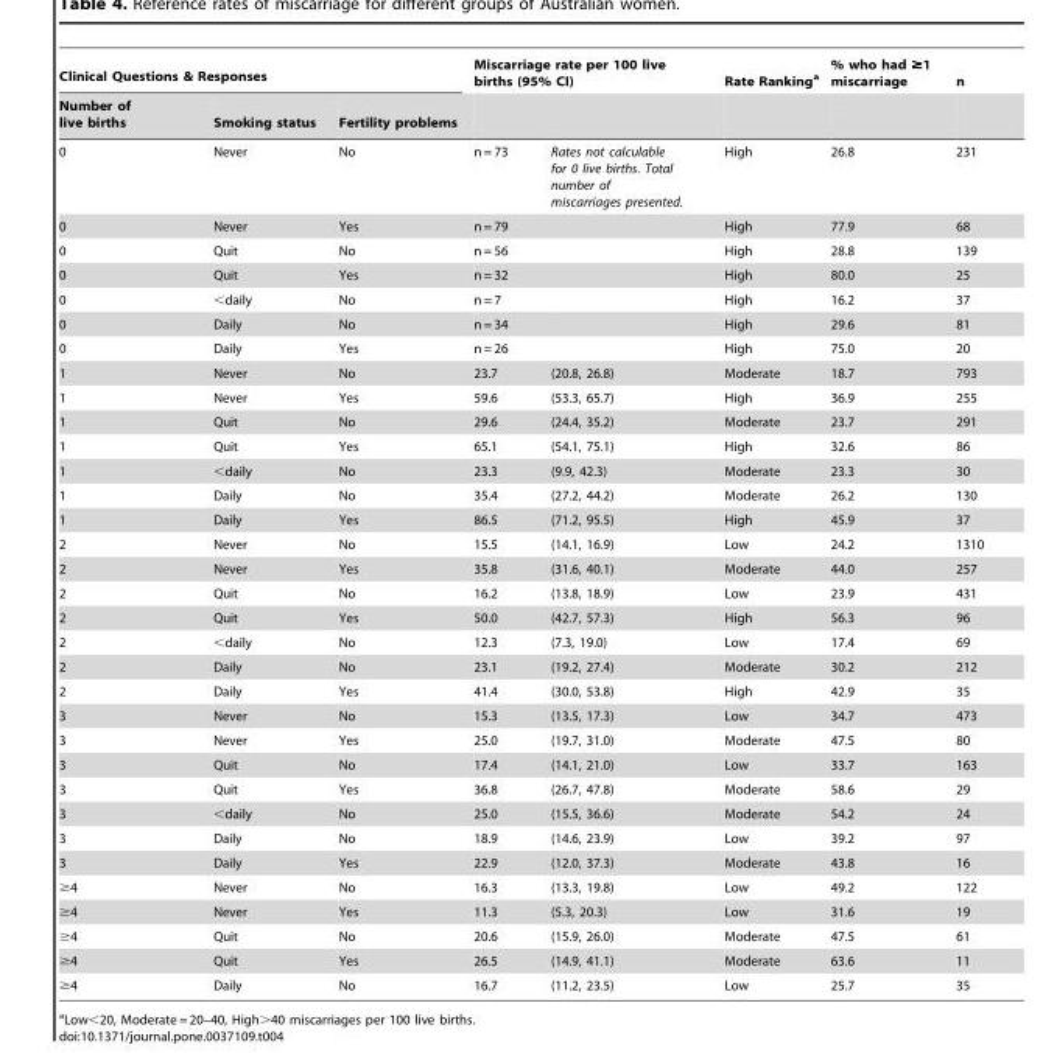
<table><thead><tr><td colspan="3">Clinical Questions &amp; Responses</td><td colspan="2">Miscarriage rate per 100 live births (95% CI)</td><td rowspan="2">Rate Ranking<sup>a</sup></td><td rowspan="2">% who had ≥1 miscarriage</td><td rowspan="2">n</td></tr><tr><td>Number of live births</td><td>Smoking status</td><td>Fertility problems</td><td></td><td></td></tr></thead><tbody><tr><td>0</td><td>Never</td><td>No</td><td>n = 73</td><td>Rates not calculable for 0 live births. Total number of miscarriages presented.</td><td>High</td><td>26.8</td><td>231</td></tr><tr><td>0</td><td>Never</td><td>Yes</td><td>n = 79</td><td></td><td>High</td><td>77.9</td><td>68</td></tr><tr><td>0</td><td>Quit</td><td>No</td><td>n = 56</td><td></td><td>High</td><td>28.8</td><td>139</td></tr><tr><td>0</td><td>Quit</td><td>Yes</td><td>n = 32</td><td></td><td>High</td><td>80.0</td><td>25</td></tr><tr><td>0</td><td>&lt;daily</td><td>No</td><td>n = 7</td><td></td><td>High</td><td>16.2</td><td>37</td></tr><tr><td>0</td><td>Daily</td><td>No</td><td>n = 34</td><td></td><td>High</td><td>29.6</td><td>81</td></tr><tr><td>0</td><td>Daily</td><td>Yes</td><td>n = 26</td><td></td><td>High</td><td>75.0</td><td>20</td></tr><tr><td>1</td><td>Never</td><td>No</td><td>23.7</td><td>(20.8, 26.8)</td><td>Moderate</td><td>18.7</td><td>793</td></tr><tr><td>1</td><td>Never</td><td>Yes</td><td>59.6</td><td>(53.3, 65.7)</td><td>High</td><td>36.9</td><td>255</td></tr><tr><td>1</td><td>Quit</td><td>No</td><td>29.6</td><td>(24.4, 35.2)</td><td>Moderate</td><td>23.7</td><td>291</td></tr><tr><td>1</td><td>Quit</td><td>Yes</td><td>65.1</td><td>(54.1, 75.1)</td><td>High</td><td>32.6</td><td>86</td></tr><tr><td>1</td><td>&lt;daily</td><td>No</td><td>23.3</td><td>(9.9, 42.3)</td><td>Moderate</td><td>23.3</td><td>30</td></tr><tr><td>1</td><td>Daily</td><td>No</td><td>35.4</td><td>(27.2, 44.2)</td><td>Moderate</td><td>26.2</td><td>130</td></tr><tr><td>1</td><td>Daily</td><td>Yes</td><td>86.5</td><td>(71.2, 95.5)</td><td>High</td><td>45.9</td><td>37</td></tr><tr><td>2</td><td>Never</td><td>No</td><td>15.5</td><td>(14.1, 16.9)</td><td>Low</td><td>24.2</td><td>1310</td></tr><tr><td>2</td><td>Never</td><td>Yes</td><td>35.8</td><td>(31.6, 40.1)</td><td>Moderate</td><td>44.0</td><td>257</td></tr><tr><td>2</td><td>Quit</td><td>No</td><td>16.2</td><td>(13.8, 18.9)</td><td>Low</td><td>23.9</td><td>431</td></tr><tr><td>2</td><td>Quit</td><td>Yes</td><td>50.0</td><td>(42.7, 57.3)</td><td>High</td><td>56.3</td><td>96</td></tr><tr><td>2</td><td>&lt;daily</td><td>No</td><td>12.3</td><td>(7.3, 19.0)</td><td>Low</td><td>17.4</td><td>69</td></tr><tr><td>2</td><td>Daily</td><td>No</td><td>23.1</td><td>(19.2, 27.4)</td><td>Moderate</td><td>30.2</td><td>212</td></tr><tr><td>2</td><td>Daily</td><td>Yes</td><td>41.4</td><td>(30.0, 53.8)</td><td>High</td><td>42.9</td><td>35</td></tr><tr><td>3</td><td>Never</td><td>No</td><td>15.3</td><td>(13.5, 17.3)</td><td>Low</td><td>34.7</td><td>473</td></tr><tr><td>3</td><td>Never</td><td>Yes</td><td>25.0</td><td>(19.7, 31.0)</td><td>Moderate</td><td>47.5</td><td>80</td></tr><tr><td>3</td><td>Quit</td><td>No</td><td>17.4</td><td>(14.1, 21.0)</td><td>Low</td><td>33.7</td><td>163</td></tr><tr><td>3</td><td>Quit</td><td>Yes</td><td>36.8</td><td>(26.7, 47.8)</td><td>Moderate</td><td>58.6</td><td>29</td></tr><tr><td>3</td><td>&lt;daily</td><td>No</td><td>25.0</td><td>(15.5, 36.6)</td><td>Moderate</td><td>54.2</td><td>24</td></tr><tr><td>3</td><td>Daily</td><td>No</td><td>18.9</td><td>(14.6, 23.9)</td><td>Low</td><td>39.2</td><td>97</td></tr><tr><td>3</td><td>Daily</td><td>Yes</td><td>22.9</td><td>(12.0, 37.3)</td><td>Moderate</td><td>43.8</td><td>16</td></tr><tr><td>≥4</td><td>Never</td><td>No</td><td>16.3</td><td>(13.3, 19.8)</td><td>Low</td><td>49.2</td><td>122</td></tr><tr><td>≥4</td><td>Never</td><td>Yes</td><td>11.3</td><td>(5.3, 20.3)</td><td>Low</td><td>31.6</td><td>19</td></tr><tr><td>≥4</td><td>Quit</td><td>No</td><td>20.6</td><td>(15.9, 26.0)</td><td>Moderate</td><td>47.5</td><td>61</td></tr><tr><td>≥4</td><td>Quit</td><td>Yes</td><td>26.5</td><td>(14.9, 41.1)</td><td>Moderate</td><td>63.6</td><td>11</td></tr><tr><td>≥4</td><td>Daily</td><td>No</td><td>16.7</td><td>(11.2, 23.5)</td><td>Low</td><td>25.7</td><td>35</td></tr></tbody></table>